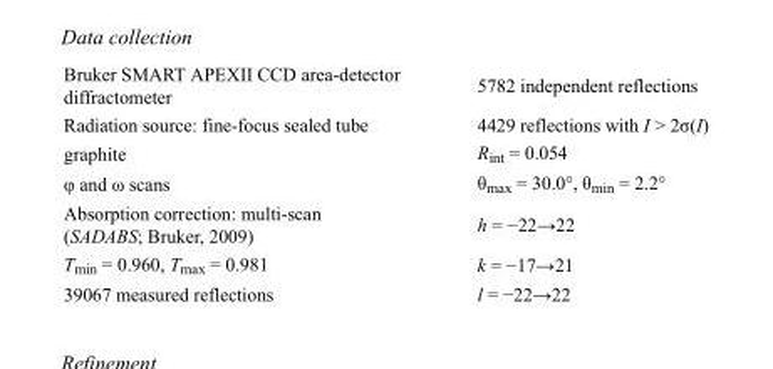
<table><tbody><tr><td>Bruker SMART APEXII CCD area-detector diffractometer</td><td>5782 independent reflections</td></tr><tr><td>Radiation source: fine-focus sealed tube</td><td>4429 reflections with I &gt; 2σ(I)</td></tr><tr><td>graphite</td><td>R<sub>int</sub> = 0.054</td></tr><tr><td>φ and ω scans</td><td>θ<sub>max</sub> = 30.0°, θ<sub>min</sub> = 2.2°</td></tr><tr><td>Absorption correction: multi-scan (SADABS; Bruker, 2009)</td><td>h = −22→22</td></tr><tr><td>T<sub>min</sub> = 0.960, T<sub>max</sub> = 0.981</td><td>k = −17→21</td></tr><tr><td>39067 measured reflections</td><td>l = −22→22</td></tr></tbody></table>